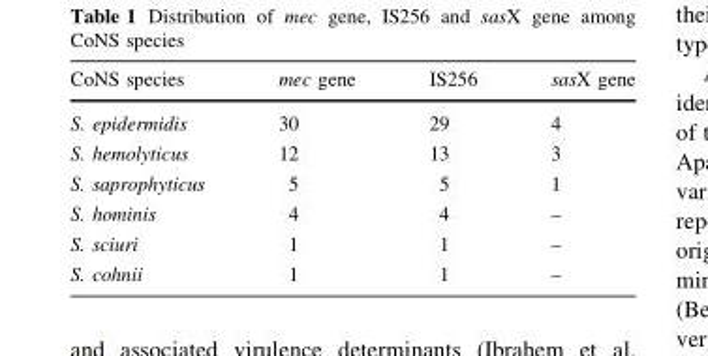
<table><thead><tr><td>CoNS species</td><td>mec gene</td><td>IS256</td><td>sasX gene</td></tr></thead><tbody><tr><td>S. epidermidis</td><td>30</td><td>29</td><td>4</td></tr><tr><td>S. hemolyticus</td><td>12</td><td>13</td><td>3</td></tr><tr><td>S. saprophyticus</td><td>5</td><td>5</td><td>1</td></tr><tr><td>S. hominis</td><td>4</td><td>4</td><td>–</td></tr><tr><td>S. sciuri</td><td>1</td><td>1</td><td>–</td></tr><tr><td>S. cohnii</td><td>1</td><td>1</td><td>–</td></tr></tbody></table>